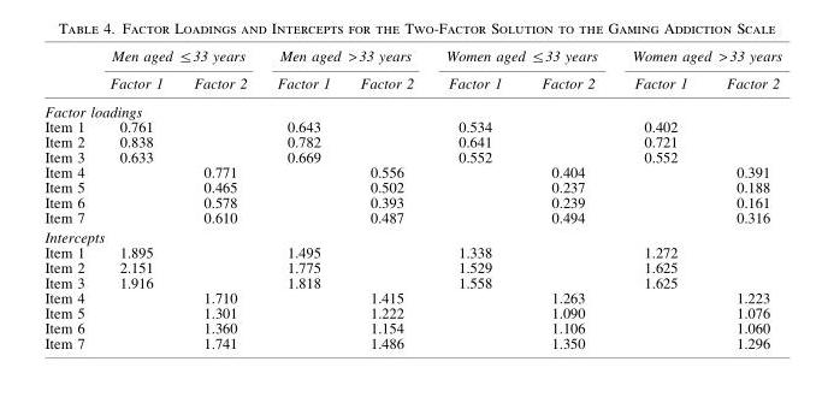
<table><thead><tr><td rowspan="2"></td><td colspan="2">Men aged ≤33 years</td><td colspan="2">Men aged &gt; 33 years</td><td colspan="2">Women aged ≤33 years</td><td colspan="2">Women aged &gt; 33 years</td></tr><tr><td>Factor 1</td><td>Factor 2</td><td>Factor 1</td><td>Factor 2</td><td>Factor 1</td><td>Factor 2</td><td>Factor 1</td><td>Factor 2</td></tr></thead><tbody><tr><td colspan="9">Factor loadings</td></tr><tr><td>Item 1</td><td>0.761</td><td></td><td>0.643</td><td></td><td>0.534</td><td></td><td>0.402</td><td></td></tr><tr><td>Item 2</td><td>0.838</td><td></td><td>0.782</td><td></td><td>0.641</td><td></td><td>0.721</td><td></td></tr><tr><td>Item 3</td><td>0.633</td><td></td><td>0.669</td><td></td><td>0.552</td><td></td><td>0.552</td><td></td></tr><tr><td>Item 4</td><td></td><td>0.771</td><td></td><td>0.556</td><td></td><td>0.404</td><td></td><td>0.391</td></tr><tr><td>Item 5</td><td></td><td>0.465</td><td></td><td>0.502</td><td></td><td>0.237</td><td></td><td>0.188</td></tr><tr><td>Item 6</td><td></td><td>0.578</td><td></td><td>0.393</td><td></td><td>0.239</td><td></td><td>0.161</td></tr><tr><td>Item 7</td><td></td><td>0.610</td><td></td><td>0.487</td><td></td><td>0.494</td><td></td><td>0.316</td></tr><tr><td colspan="9">Intercepts</td></tr><tr><td>Item 1</td><td>1.895</td><td></td><td>1.495</td><td></td><td>1.338</td><td></td><td>1.272</td><td></td></tr><tr><td>Item 2</td><td>2.151</td><td></td><td>1.775</td><td></td><td>1.529</td><td></td><td>1.625</td><td></td></tr><tr><td>Item 3</td><td>1.916</td><td></td><td>1.818</td><td></td><td>1.558</td><td></td><td>1.625</td><td></td></tr><tr><td>Item 4</td><td></td><td>1.710</td><td></td><td>1.415</td><td></td><td>1.263</td><td></td><td>1.223</td></tr><tr><td>Item 5</td><td></td><td>1.301</td><td></td><td>1.222</td><td></td><td>1.090</td><td></td><td>1.076</td></tr><tr><td>Item 6</td><td></td><td>1.360</td><td></td><td>1.154</td><td></td><td>1.106</td><td></td><td>1.060</td></tr><tr><td>Item 7</td><td></td><td>1.741</td><td></td><td>1.486</td><td></td><td>1.350</td><td></td><td>1.296</td></tr></tbody></table>